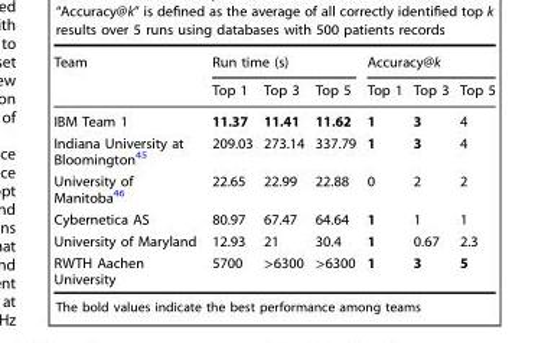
<table><thead><tr><td rowspan="2">Team</td><td colspan="3">Run time (s)</td><td colspan="3">Accuracy@k</td></tr><tr><td>Top 1</td><td>Top 3</td><td>Top 5</td><td>Top 1</td><td>Top 3</td><td>Top 5</td></tr></thead><tbody><tr><td>IBM Team 1</td><td>11.37</td><td>11.41</td><td>11.62</td><td>1</td><td>3</td><td>4</td></tr><tr><td>Indiana University at Bloomington<sup>45</sup></td><td>209.03</td><td>273.14</td><td>337.79</td><td>1</td><td>3</td><td>4</td></tr><tr><td>University of Manitoba<sup>46</sup></td><td>22.65</td><td>22.99</td><td>22.88</td><td>0</td><td>2</td><td>2</td></tr><tr><td>Cybernetica AS</td><td>80.97</td><td>67.47</td><td>64.64</td><td>1</td><td>1</td><td>1</td></tr><tr><td>University of Maryland</td><td>12.93</td><td>21</td><td>30.4</td><td>1</td><td>0.67</td><td>2.3</td></tr><tr><td>RWTH Aachen University</td><td>5700</td><td>&gt;6300</td><td>&gt;6300</td><td>1</td><td>3</td><td>5</td></tr></tbody></table>